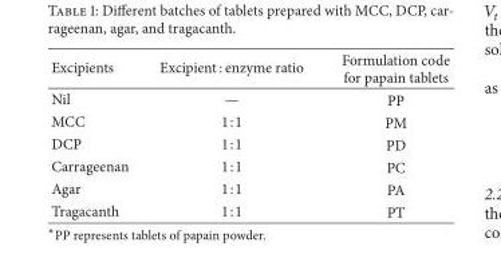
<table><thead><tr><td>Excipients</td><td>Excipient : enzyme ratio</td><td>Formulation code for papain tablets</td></tr></thead><tbody><tr><td>Nil</td><td>—</td><td>PP</td></tr><tr><td>MCC</td><td>1 : 1</td><td>PM</td></tr><tr><td>DCP</td><td>1 : 1</td><td>PD</td></tr><tr><td>Carrageenan</td><td>1 : 1</td><td>PC</td></tr><tr><td>Agar</td><td>1 : 1</td><td>PA</td></tr><tr><td>Tragacanth</td><td>1 : 1</td><td>PT</td></tr></tbody></table>